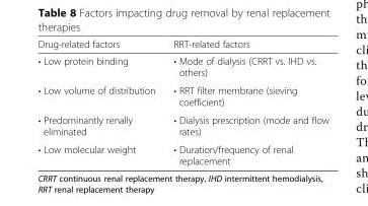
<table><thead><tr><td>Drug-related factors</td><td>RRT-related factors</td></tr></thead><tbody><tr><td>• Low protein binding</td><td>• Mode of dialysis (CRRT vs. IHD vs. others)</td></tr><tr><td>• Low volume of distribution</td><td>• RRT filter membrane (sieving coefficient)</td></tr><tr><td>• Predominantly renally eliminated</td><td>• Dialysis prescription (mode and flow rates)</td></tr><tr><td>• Low molecular weight</td><td>• Duration/frequency of renal replacement</td></tr></tbody></table>